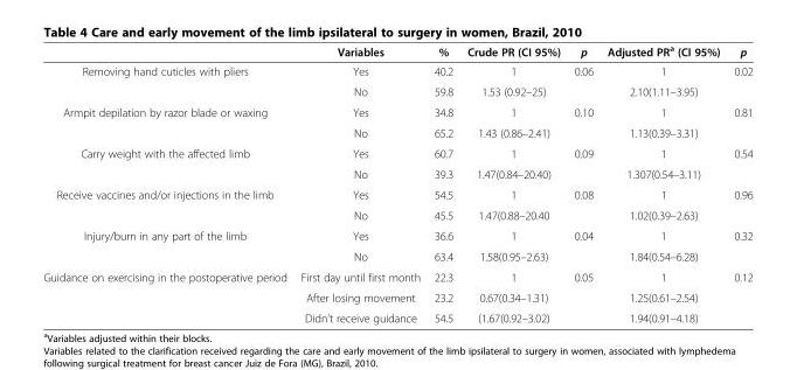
<table><thead><tr><td></td><td>Variables</td><td>%</td><td>Crude PR (CI 95%)</td><td>p</td><td>Adjusted PR<sup>a</sup> (CI 95%)</td><td>p</td></tr></thead><tbody><tr><td rowspan="2">Removing hand cuticles with pliers</td><td>Yes</td><td>40.2</td><td>1</td><td>0.06</td><td>1</td><td>0.02</td></tr><tr><td>No</td><td>59.8</td><td>1.53 (0.92–25)</td><td></td><td>2.10(1.11–3.95)</td><td></td></tr><tr><td rowspan="2">Armpit depilation by razor blade or waxing</td><td>Yes</td><td>34.8</td><td>1</td><td>0.10</td><td>1</td><td>0.81</td></tr><tr><td>No</td><td>65.2</td><td>1.43 (0.86–2.41)</td><td></td><td>1.13(0.39–3.31)</td><td></td></tr><tr><td rowspan="2">Carry weight with the affected limb</td><td>Yes</td><td>60.7</td><td>1</td><td>0.09</td><td>1</td><td>0.54</td></tr><tr><td>No</td><td>39.3</td><td>1.47(0.84–20.40)</td><td></td><td>1.307(0.54–3.11)</td><td></td></tr><tr><td rowspan="2">Receive vaccines and/or injections in the limb</td><td>Yes</td><td>54.5</td><td>1</td><td>0.08</td><td>1</td><td>0.96</td></tr><tr><td>No</td><td>45.5</td><td>1.47(0.88–20.40</td><td></td><td>1.02(0.39–2.63)</td><td></td></tr><tr><td rowspan="2">Injury/burn in any part of the limb</td><td>Yes</td><td>36.6</td><td>1</td><td>0.04</td><td>1</td><td>0.32</td></tr><tr><td>No</td><td>63.4</td><td>1.58(0.95–2.63)</td><td></td><td>1.84(0.54–6.28)</td><td></td></tr><tr><td rowspan="3">Guidance on exercising in the postoperative period</td><td>First day until first month</td><td>22.3</td><td>1</td><td>0.05</td><td>1</td><td>0.12</td></tr><tr><td>After losing movement</td><td>23.2</td><td>0.67(0.34–1.31)</td><td></td><td>1.25(0.61–2.54)</td><td></td></tr><tr><td>Didn’t receive guidance</td><td>54.5</td><td>(1.67(0.92–3.02)</td><td></td><td>1.94(0.91–4.18)</td><td></td></tr></tbody></table>